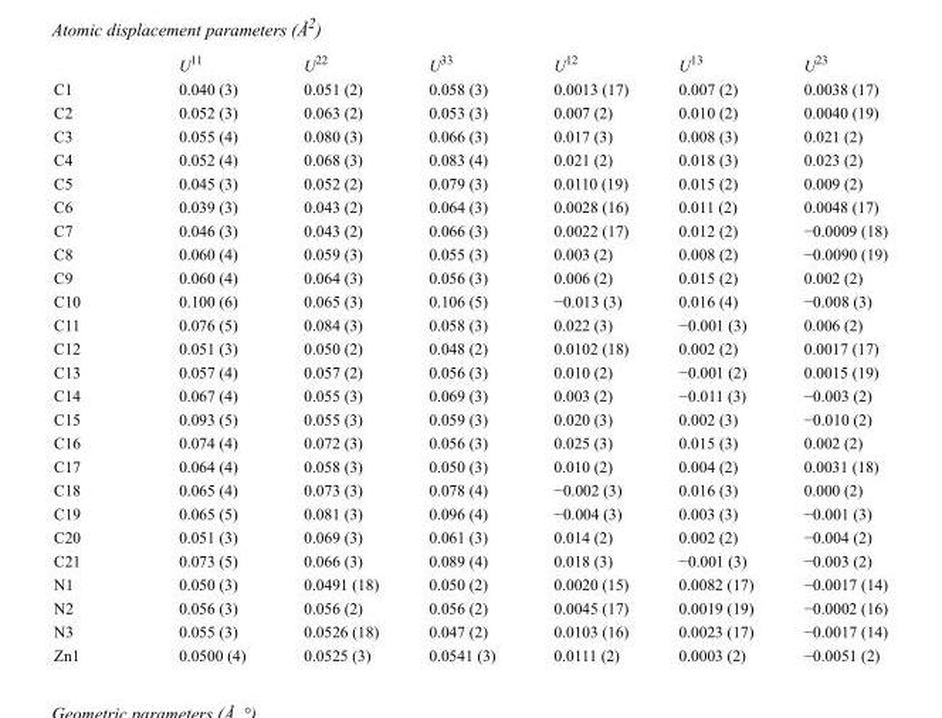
<table><thead><tr><td></td><td>U<sup>11</sup></td><td>U<sup>22</sup></td><td>U<sup>33</sup></td><td>U<sup>12</sup></td><td>U<sup>13</sup></td><td>U<sup>23</sup></td></tr></thead><tbody><tr><td>C1</td><td>0.040 (3)</td><td>0.051 (2)</td><td>0.058 (3)</td><td>0.0013 (17)</td><td>0.007 (2)</td><td>0.0038 (17)</td></tr><tr><td>C2</td><td>0.052 (3)</td><td>0.063 (2)</td><td>0.053 (3)</td><td>0.007 (2)</td><td>0.010 (2)</td><td>0.0040 (19)</td></tr><tr><td>C3</td><td>0.055 (4)</td><td>0.080 (3)</td><td>0.066 (3)</td><td>0.017 (3)</td><td>0.008 (3)</td><td>0.021 (2)</td></tr><tr><td>C4</td><td>0.052 (4)</td><td>0.068 (3)</td><td>0.083 (4)</td><td>0.021 (2)</td><td>0.018 (3)</td><td>0.023 (2)</td></tr><tr><td>C5</td><td>0.045 (3)</td><td>0.052 (2)</td><td>0.079 (3)</td><td>0.0110 (19)</td><td>0.015 (2)</td><td>0.009 (2)</td></tr><tr><td>C6</td><td>0.039 (3)</td><td>0.043 (2)</td><td>0.064 (3)</td><td>0.0028 (16)</td><td>0.011 (2)</td><td>0.0048 (17)</td></tr><tr><td>C7</td><td>0.046 (3)</td><td>0.043 (2)</td><td>0.066 (3)</td><td>0.0022 (17)</td><td>0.012 (2)</td><td>−0.0009 (18)</td></tr><tr><td>C8</td><td>0.060 (4)</td><td>0.059 (3)</td><td>0.055 (3)</td><td>0.003 (2)</td><td>0.008 (2)</td><td>−0.0090 (19)</td></tr><tr><td>C9</td><td>0.060 (4)</td><td>0.064 (3)</td><td>0.056 (3)</td><td>0.006 (2)</td><td>0.015 (2)</td><td>0.002 (2)</td></tr><tr><td>C10</td><td>0.100 (6)</td><td>0.065 (3)</td><td>0.106 (5)</td><td>−0.013 (3)</td><td>0.016 (4)</td><td>−0.008 (3)</td></tr><tr><td>C11</td><td>0.076 (5)</td><td>0.084 (3)</td><td>0.058 (3)</td><td>0.022 (3)</td><td>−0.001 (3)</td><td>0.006 (2)</td></tr><tr><td>C12</td><td>0.051 (3)</td><td>0.050 (2)</td><td>0.048 (2)</td><td>0.0102 (18)</td><td>0.002 (2)</td><td>0.0017 (17)</td></tr><tr><td>C13</td><td>0.057 (4)</td><td>0.057 (2)</td><td>0.056 (3)</td><td>0.010 (2)</td><td>−0.001 (2)</td><td>0.0015 (19)</td></tr><tr><td>C14</td><td>0.067 (4)</td><td>0.055 (3)</td><td>0.069 (3)</td><td>0.003 (2)</td><td>−0.011 (3)</td><td>−0.003 (2)</td></tr><tr><td>C15</td><td>0.093 (5)</td><td>0.055 (3)</td><td>0.059 (3)</td><td>0.020 (3)</td><td>0.002 (3)</td><td>−0.010 (2)</td></tr><tr><td>C16</td><td>0.074 (4)</td><td>0.072 (3)</td><td>0.056 (3)</td><td>0.025 (3)</td><td>0.015 (3)</td><td>0.002 (2)</td></tr><tr><td>C17</td><td>0.064 (4)</td><td>0.058 (3)</td><td>0.050 (3)</td><td>0.010 (2)</td><td>0.004 (2)</td><td>0.0031 (18)</td></tr><tr><td>C18</td><td>0.065 (4)</td><td>0.073 (3)</td><td>0.078 (4)</td><td>−0.002 (3)</td><td>0.016 (3)</td><td>0.000 (2)</td></tr><tr><td>C19</td><td>0.065 (5)</td><td>0.081 (3)</td><td>0.096 (4)</td><td>−0.004 (3)</td><td>0.003 (3)</td><td>−0.001 (3)</td></tr><tr><td>C20</td><td>0.051 (3)</td><td>0.069 (3)</td><td>0.061 (3)</td><td>0.014 (2)</td><td>0.002 (2)</td><td>−0.004 (2)</td></tr><tr><td>C21</td><td>0.073 (5)</td><td>0.066 (3)</td><td>0.089 (4)</td><td>0.018 (3)</td><td>−0.001 (3)</td><td>−0.003 (2)</td></tr><tr><td>N1</td><td>0.050 (3)</td><td>0.0491 (18)</td><td>0.050 (2)</td><td>0.0020 (15)</td><td>0.0082 (17)</td><td>−0.0017 (14)</td></tr><tr><td>N2</td><td>0.056 (3)</td><td>0.056 (2)</td><td>0.056 (2)</td><td>0.0045 (17)</td><td>0.0019 (19)</td><td>−0.0002 (16)</td></tr><tr><td>N3</td><td>0.055 (3)</td><td>0.0526 (18)</td><td>0.047 (2)</td><td>0.0103 (16)</td><td>0.0023 (17)</td><td>−0.0017 (14)</td></tr><tr><td>Zn1</td><td>0.0500 (4)</td><td>0.0525 (3)</td><td>0.0541 (3)</td><td>0.0111 (2)</td><td>0.0003 (2)</td><td>−0.0051 (2)</td></tr></tbody></table>